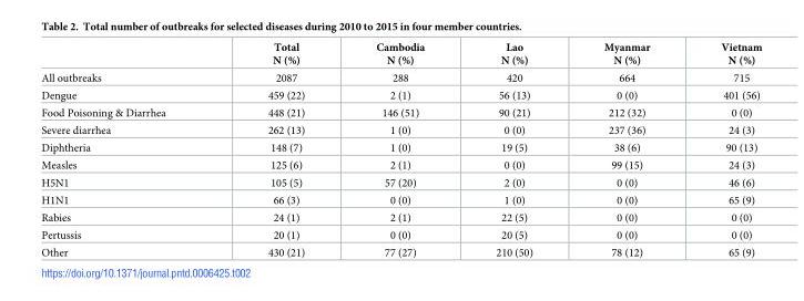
<table><thead><tr><td></td><td>Total N (%)</td><td>Cambodia N (%)</td><td>Lao N (%)</td><td>Myanmar N (%)</td><td>Vietnam N (%)</td></tr></thead><tbody><tr><td>All outbreaks</td><td>2087</td><td>288</td><td>420</td><td>664</td><td>715</td></tr><tr><td>Dengue</td><td>459 (22)</td><td>2 (1)</td><td>56 (13)</td><td>0 (0)</td><td>401 (56)</td></tr><tr><td>Food Poisoning &amp; Diarrhea</td><td>448 (21)</td><td>146 (51)</td><td>90 (21)</td><td>212 (32)</td><td>0 (0)</td></tr><tr><td>Severe diarrhea</td><td>262 (13)</td><td>1 (0)</td><td>0 (0)</td><td>237 (36)</td><td>24 (3)</td></tr><tr><td>Diphtheria</td><td>148 (7)</td><td>1 (0)</td><td>19 (5)</td><td>38 (6)</td><td>90 (13)</td></tr><tr><td>Measles</td><td>125 (6)</td><td>2 (1)</td><td>0 (0)</td><td>99 (15)</td><td>24 (3)</td></tr><tr><td>H5N1</td><td>105 (5)</td><td>57 (20)</td><td>2 (0)</td><td>0 (0)</td><td>46 (6)</td></tr><tr><td>H1N1</td><td>66 (3)</td><td>0 (0)</td><td>1 (0)</td><td>0 (0)</td><td>65 (9)</td></tr><tr><td>Rabies</td><td>24 (1)</td><td>2 (1)</td><td>22 (5)</td><td>0 (0)</td><td>0 (0)</td></tr><tr><td>Pertussis</td><td>20 (1)</td><td>0 (0)</td><td>20 (5)</td><td>0 (0)</td><td>0 (0)</td></tr><tr><td>Other</td><td>430 (21)</td><td>77 (27)</td><td>210 (50)</td><td>78 (12)</td><td>65 (9)</td></tr></tbody></table>